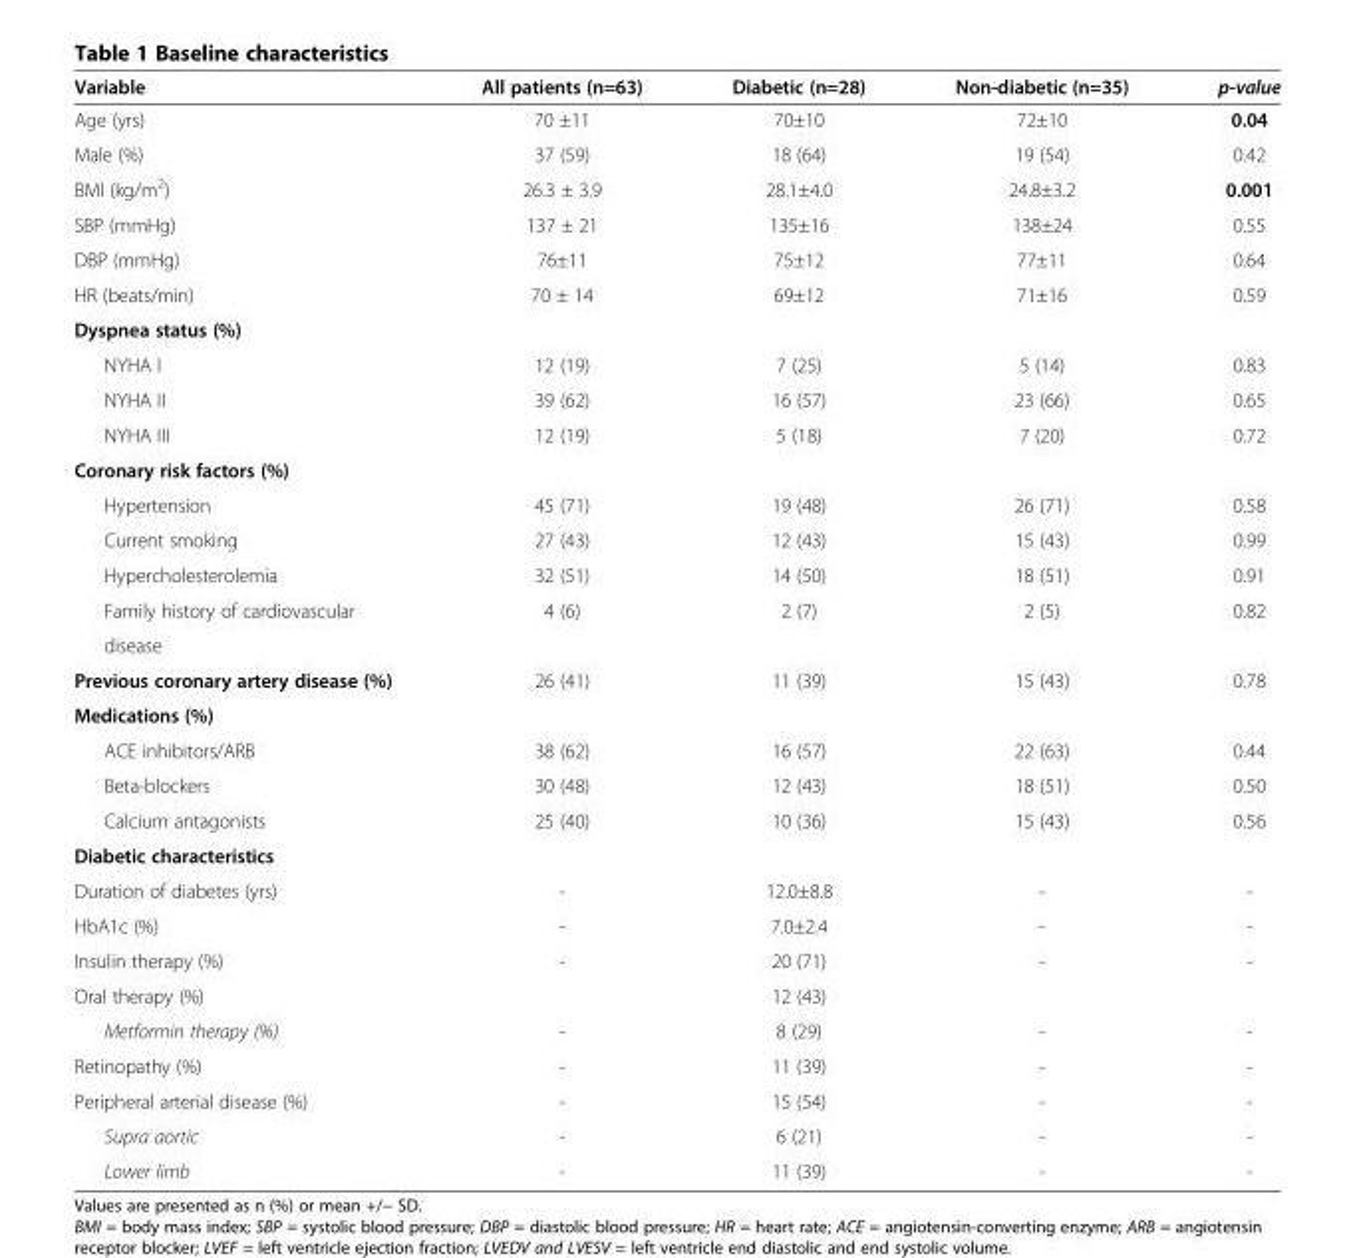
<table><thead><tr><td>Variable</td><td>All patients (n=63)</td><td>Diabetic (n=28)</td><td>Non-diabetic (n=35)</td><td>p-value</td></tr></thead><tbody><tr><td>Age (yrs)</td><td>70 ±11</td><td>70±10</td><td>72±10</td><td>0.04</td></tr><tr><td>Male (%)</td><td>37 (59)</td><td>18 (64)</td><td>19 (54)</td><td>0.42</td></tr><tr><td>BMI (kg/m<sup>2</sup>)</td><td>26.3 ± 3.9</td><td>28.1±4.0</td><td>24.8±3.2</td><td>0.001</td></tr><tr><td>SBP (mmHg)</td><td>137 ± 21</td><td>135±16</td><td>138±24</td><td>0.55</td></tr><tr><td>DBP (mmHg)</td><td>76±11</td><td>75±12</td><td>77±11</td><td>0.64</td></tr><tr><td>HR (beats/min)</td><td>70 ± 14</td><td>69±12</td><td>71±16</td><td>0.59</td></tr><tr><td colspan="5">Dyspnea status (%)</td></tr><tr><td>NYHA I</td><td>12 (19)</td><td>7 (25)</td><td>5 (14)</td><td>0.83</td></tr><tr><td>NYHA II</td><td>39 (62)</td><td>16 (57)</td><td>23 (66)</td><td>0.65</td></tr><tr><td>NYHA III</td><td>12 (19)</td><td>5 (18)</td><td>7 (20)</td><td>0.72</td></tr><tr><td colspan="5">Coronary risk factors (%)</td></tr><tr><td>Hypertension</td><td>45 (71)</td><td>19 (48)</td><td>26 (71)</td><td>0.58</td></tr><tr><td>Current smoking</td><td>27 (43)</td><td>12 (43)</td><td>15 (43)</td><td>0.99</td></tr><tr><td>Hypercholesterolemia</td><td>32 (51)</td><td>14 (50)</td><td>18 (51)</td><td>0.91</td></tr><tr><td>Family history of cardiovascular</td><td>4 (6)</td><td>2 (7)</td><td>2 (5)</td><td>0.82</td></tr><tr><td colspan="5">disease</td></tr><tr><td>Previous coronary artery disease (%)</td><td>26 (41)</td><td>11 (39)</td><td>15 (43)</td><td>0.78</td></tr><tr><td colspan="5">Medications (%)</td></tr><tr><td>ACE inhibitors/ARB</td><td>38 (62)</td><td>16 (57)</td><td>22 (63)</td><td>0.44</td></tr><tr><td>Beta-blockers</td><td>30 (48)</td><td>12 (43)</td><td>18 (51)</td><td>0.50</td></tr><tr><td>Calcium antagonists</td><td>25 (40)</td><td>10 (36)</td><td>15 (43)</td><td>0.56</td></tr><tr><td colspan="5">Diabetic characteristics</td></tr><tr><td>Duration of diabetes (yrs)</td><td>-</td><td>12.0±8.8</td><td>-</td><td>-</td></tr><tr><td>HbA1c (%)</td><td>-</td><td>7.0±2.4</td><td>-</td><td>-</td></tr><tr><td>Insulin therapy (%)</td><td>-</td><td>20 (71)</td><td>-</td><td>-</td></tr><tr><td>Oral therapy (%)</td><td></td><td>12 (43)</td><td></td><td></td></tr><tr><td>Metformin therapy (%)</td><td>-</td><td>8 (29)</td><td>-</td><td>-</td></tr><tr><td>Retinopathy (%)</td><td>-</td><td>11 (39)</td><td>-</td><td>-</td></tr><tr><td>Peripheral arterial disease (%)</td><td>-</td><td>15 (54)</td><td>-</td><td>-</td></tr><tr><td>Supra aortic</td><td>-</td><td>6 (21)</td><td>-</td><td>-</td></tr><tr><td>Lower limb</td><td>-</td><td>11 (39)</td><td>-</td><td>-</td></tr></tbody></table>